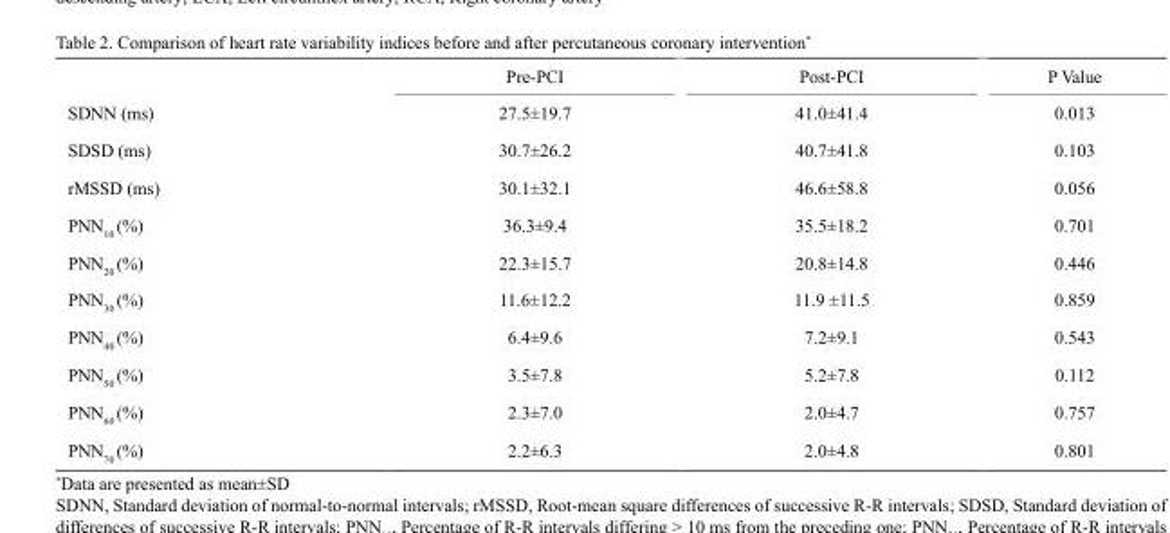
<table><thead><tr><td></td><td>Pre-PCI</td><td>Post-PCI</td><td>P Value</td></tr></thead><tbody><tr><td>SDNN (ms)</td><td>27.5±19.7</td><td>41.0±41.4</td><td>0.013</td></tr><tr><td>SDSD (ms)</td><td>30.7±26.2</td><td>40.7±41.8</td><td>0.103</td></tr><tr><td>rMSSD (ms)</td><td>30.1±32.1</td><td>46.6±58.8</td><td>0.056</td></tr><tr><td>PNN<sub>10</sub> (%)</td><td>36.3±9.4</td><td>35.5±18.2</td><td>0.701</td></tr><tr><td>PNN<sub>20</sub> (%)</td><td>22.3±15.7</td><td>20.8±14.8</td><td>0.446</td></tr><tr><td>PNN<sub>30</sub> (%)</td><td>11.6±12.2</td><td>11.9 ±11.5</td><td>0.859</td></tr><tr><td>PNN<sub>40</sub> (%)</td><td>6.4±9.6</td><td>7.2±9.1</td><td>0.543</td></tr><tr><td>PNN<sub>50</sub> (%)</td><td>3.5±7.8</td><td>5.2±7.8</td><td>0.112</td></tr><tr><td>PNN<sub>60</sub> (%)</td><td>2.3±7.0</td><td>2.0±4.7</td><td>0.757</td></tr><tr><td>PNN<sub>70</sub> (%)</td><td>2.2±6.3</td><td>2.0±4.8</td><td>0.801</td></tr></tbody></table>